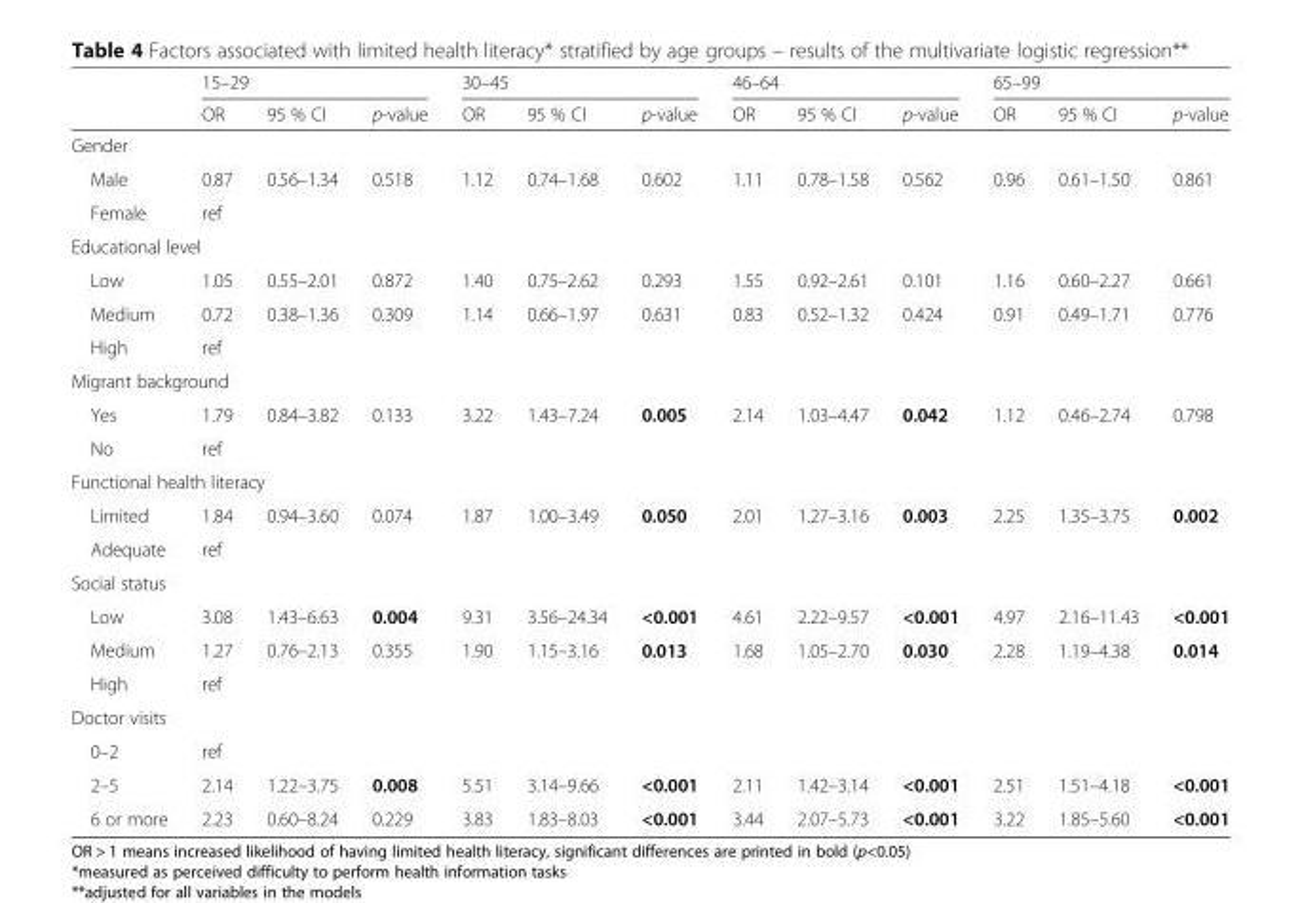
<table><thead><tr><td rowspan="2"></td><td colspan="3">15–29</td><td colspan="3">30–45</td><td colspan="3">46–64</td><td colspan="3">65–99</td></tr><tr><td>OR</td><td>95 % CI</td><td>p-value</td><td>OR</td><td>95 % CI</td><td>p-value</td><td>OR</td><td>95 % CI</td><td>p-value</td><td>OR</td><td>95 % CI</td><td>p-value</td></tr></thead><tbody><tr><td colspan="13">Gender</td></tr><tr><td>Male</td><td>0.87</td><td>0.56–1.34</td><td>0.518</td><td>1.12</td><td>0.74–1.68</td><td>0.602</td><td>1.11</td><td>0.78–1.58</td><td>0.562</td><td>0.96</td><td>0.61–1.50</td><td>0.861</td></tr><tr><td>Female</td><td>ref</td><td colspan="11"></td></tr><tr><td colspan="13">Educational level</td></tr><tr><td>Low</td><td>1.05</td><td>0.55–2.01</td><td>0.872</td><td>1.40</td><td>0.75–2.62</td><td>0.293</td><td>1.55</td><td>0.92–2.61</td><td>0.101</td><td>1.16</td><td>0.60–2.27</td><td>0.661</td></tr><tr><td>Medium</td><td>0.72</td><td>0.38–1.36</td><td>0.309</td><td>1.14</td><td>0.66–1.97</td><td>0.631</td><td>0.83</td><td>0.52–1.32</td><td>0.424</td><td>0.91</td><td>0.49–1.71</td><td>0.776</td></tr><tr><td>High</td><td>ref</td><td colspan="11"></td></tr><tr><td colspan="13">Migrant background</td></tr><tr><td>Yes</td><td>1.79</td><td>0.84–3.82</td><td>0.133</td><td>3.22</td><td>1.43–7.24</td><td>0.005</td><td>2.14</td><td>1.03–4.47</td><td>0.042</td><td>1.12</td><td>0.46–2.74</td><td>0.798</td></tr><tr><td>No</td><td>ref</td><td colspan="11"></td></tr><tr><td colspan="13">Functional health literacy</td></tr><tr><td>Limited</td><td>1.84</td><td>0.94–3.60</td><td>0.074</td><td>1.87</td><td>1.00–3.49</td><td>0.050</td><td>2.01</td><td>1.27–3.16</td><td>0.003</td><td>2.25</td><td>1.35–3.75</td><td>0.002</td></tr><tr><td>Adequate</td><td>ref</td><td colspan="11"></td></tr><tr><td colspan="13">Social status</td></tr><tr><td>Low</td><td>3.08</td><td>1.43–6.63</td><td>0.004</td><td>9.31</td><td>3.56–24.34</td><td>&lt;0.001</td><td>4.61</td><td>2.22–9.57</td><td>&lt;0.001</td><td>4.97</td><td>2.16–11.43</td><td>&lt;0.001</td></tr><tr><td>Medium</td><td>1.27</td><td>0.76–2.13</td><td>0.355</td><td>1.90</td><td>1.15–3.16</td><td>0.013</td><td>1.68</td><td>1.05–2.70</td><td>0.030</td><td>2.28</td><td>1.19–4.38</td><td>0.014</td></tr><tr><td>High</td><td>ref</td><td colspan="11"></td></tr><tr><td colspan="13">Doctor visits</td></tr><tr><td>0–2</td><td>ref</td><td colspan="11"></td></tr><tr><td>2–5</td><td>2.14</td><td>1.22–3.75</td><td>0.008</td><td>5.51</td><td>3.14–9.66</td><td>&lt;0.001</td><td>2.11</td><td>1.42–3.14</td><td>&lt;0.001</td><td>2.51</td><td>1.51–4.18</td><td>&lt;0.001</td></tr><tr><td>6 or more</td><td>2.23</td><td>0.60–8.24</td><td>0.229</td><td>3.83</td><td>1.83–8.03</td><td>&lt;0.001</td><td>3.44</td><td>2.07–5.73</td><td>&lt;0.001</td><td>3.22</td><td>1.85–5.60</td><td>&lt;0.001</td></tr></tbody></table>